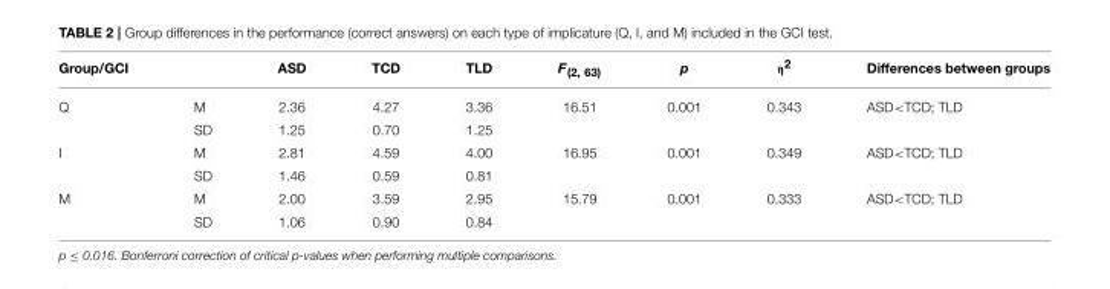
<table><thead><tr><td>Group/GCI</td><td></td><td>ASD</td><td>TCD</td><td>TLD</td><td>F<sub>(2, 63)</sub></td><td>p</td><td>η<sup>2</sup></td><td>Differences between groups</td></tr></thead><tbody><tr><td rowspan="2">Q</td><td>M</td><td>2.36</td><td>4.27</td><td>3.36</td><td>16.51</td><td>0.001</td><td>0.343</td><td>ASD&lt;TCD; TLD</td></tr><tr><td>SD</td><td>1.25</td><td>0.70</td><td>1.25</td><td></td><td></td><td></td><td></td></tr><tr><td rowspan="2">I</td><td>M</td><td>2.81</td><td>4.59</td><td>4.00</td><td>16.95</td><td>0.001</td><td>0.349</td><td>ASD&lt;TCD; TLD</td></tr><tr><td>SD</td><td>1.46</td><td>0.59</td><td>0.81</td><td></td><td></td><td></td><td></td></tr><tr><td rowspan="2">M</td><td>M</td><td>2.00</td><td>3.59</td><td>2.95</td><td>15.79</td><td>0.001</td><td>0.333</td><td>ASD&lt;TCD; TLD</td></tr><tr><td>SD</td><td>1.06</td><td>0.90</td><td>0.84</td><td></td><td></td><td></td><td></td></tr></tbody></table>